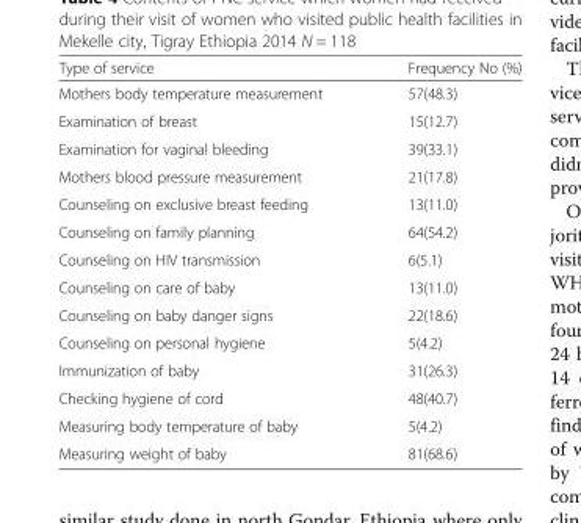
<table><thead><tr><td>Type of service</td><td>Frequency No (%)</td></tr></thead><tbody><tr><td>Mothers body temperature measurement</td><td>57(48.3)</td></tr><tr><td>Examination of breast</td><td>15(12.7)</td></tr><tr><td>Examination for vaginal bleeding</td><td>39(33.1)</td></tr><tr><td>Mothers blood pressure measurement</td><td>21(17.8)</td></tr><tr><td>Counseling on exclusive breast feeding</td><td>13(11.0)</td></tr><tr><td>Counseling on family planning</td><td>64(54.2)</td></tr><tr><td>Counseling on HIV transmission</td><td>6(5.1)</td></tr><tr><td>Counseling on care of baby</td><td>13(11.0)</td></tr><tr><td>Counseling on baby danger signs</td><td>22(18.6)</td></tr><tr><td>Counseling on personal hygiene</td><td>5(4.2)</td></tr><tr><td>Immunization of baby</td><td>31(26.3)</td></tr><tr><td>Checking hygiene of cord</td><td>48(40.7)</td></tr><tr><td>Measuring body temperature of baby</td><td>5(4.2)</td></tr><tr><td>Measuring weight of baby</td><td>81(68.6)</td></tr></tbody></table>